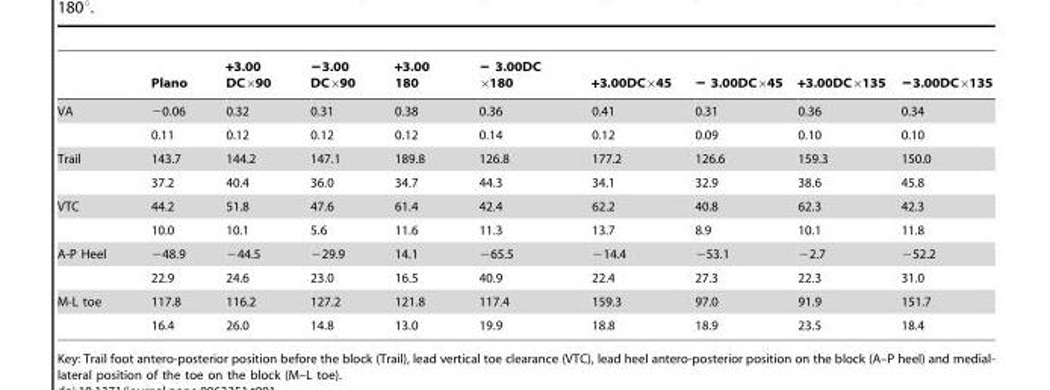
<table><thead><tr><td></td><td>Plano</td><td>+3.00 DC×90</td><td>−3.00 DC×90</td><td>+3.00 180</td><td>− 3.00DC ×180</td><td>+3.00DC×45</td><td>− 3.00DC×45</td><td>+3.00DC×135</td><td>−3.00DC×135</td></tr></thead><tbody><tr><td rowspan="2">VA</td><td>−0.06</td><td>0.32</td><td>0.31</td><td>0.38</td><td>0.36</td><td>0.41</td><td>0.31</td><td>0.36</td><td>0.34</td></tr><tr><td>0.11</td><td>0.12</td><td>0.12</td><td>0.12</td><td>0.14</td><td>0.12</td><td>0.09</td><td>0.10</td><td>0.10</td></tr><tr><td rowspan="2">Trail</td><td>143.7</td><td>144.2</td><td>147.1</td><td>189.8</td><td>126.8</td><td>177.2</td><td>126.6</td><td>159.3</td><td>150.0</td></tr><tr><td>37.2</td><td>40.4</td><td>36.0</td><td>34.7</td><td>44.3</td><td>34.1</td><td>32.9</td><td>38.6</td><td>45.8</td></tr><tr><td rowspan="2">VTC</td><td>44.2</td><td>51.8</td><td>47.6</td><td>61.4</td><td>42.4</td><td>62.2</td><td>40.8</td><td>62.3</td><td>42.3</td></tr><tr><td>10.0</td><td>10.1</td><td>5.6</td><td>11.6</td><td>11.3</td><td>13.7</td><td>8.9</td><td>10.1</td><td>11.8</td></tr><tr><td rowspan="2">A-P Heel</td><td>−48.9</td><td>−44.5</td><td>−29.9</td><td>14.1</td><td>−65.5</td><td>−14.4</td><td>−53.1</td><td>−2.7</td><td>−52.2</td></tr><tr><td>22.9</td><td>24.6</td><td>23.0</td><td>16.5</td><td>40.9</td><td>22.4</td><td>27.3</td><td>22.3</td><td>31.0</td></tr><tr><td rowspan="2">M-L toe</td><td>117.8</td><td>116.2</td><td>127.2</td><td>121.8</td><td>117.4</td><td>159.3</td><td>97.0</td><td>91.9</td><td>151.7</td></tr><tr><td>16.4</td><td>26.0</td><td>14.8</td><td>13.0</td><td>19.9</td><td>18.8</td><td>18.9</td><td>23.5</td><td>18.4</td></tr></tbody></table>